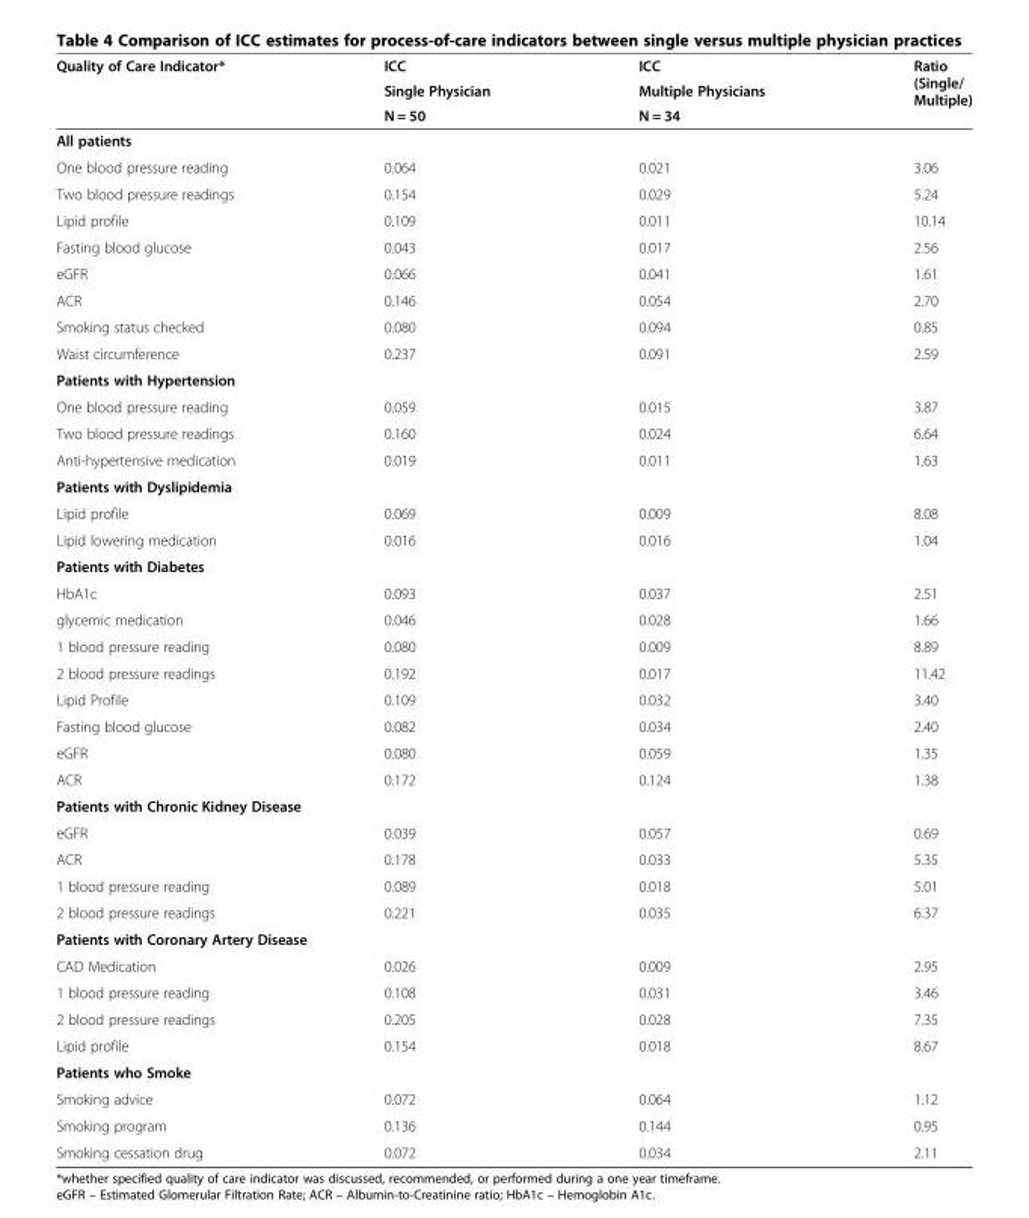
<table><thead><tr><td rowspan="3">Quality of Care Indicator*</td><td rowspan="3">ICC Single Physician N = 50</td><td rowspan="3">ICC Multiple Physicians N = 34</td><td rowspan="3">Ratio (Single/ Multiple)</td></tr><tr></tr><tr></tr></thead><tbody><tr><td colspan="4">All patients</td></tr><tr><td>One blood pressure reading</td><td>0.064</td><td>0.021</td><td>3.06</td></tr><tr><td>Two blood pressure readings</td><td>0.154</td><td>0.029</td><td>5.24</td></tr><tr><td>Lipid profile</td><td>0.109</td><td>0.011</td><td>10.14</td></tr><tr><td>Fasting blood glucose</td><td>0.043</td><td>0.017</td><td>2.56</td></tr><tr><td>eGFR</td><td>0.066</td><td>0.041</td><td>1.61</td></tr><tr><td>ACR</td><td>0.146</td><td>0.054</td><td>2.70</td></tr><tr><td>Smoking status checked</td><td>0.080</td><td>0.094</td><td>0.85</td></tr><tr><td>Waist circumference</td><td>0.237</td><td>0.091</td><td>2.59</td></tr><tr><td colspan="4">Patients with Hypertension</td></tr><tr><td>One blood pressure reading</td><td>0.059</td><td>0.015</td><td>3.87</td></tr><tr><td>Two blood pressure readings</td><td>0.160</td><td>0.024</td><td>6.64</td></tr><tr><td>Anti-hypertensive medication</td><td>0.019</td><td>0.011</td><td>1.63</td></tr><tr><td colspan="4">Patients with Dyslipidemia</td></tr><tr><td>Lipid profile</td><td>0.069</td><td>0.009</td><td>8.08</td></tr><tr><td>Lipid lowering medication</td><td>0.016</td><td>0.016</td><td>1.04</td></tr><tr><td colspan="4">Patients with Diabetes</td></tr><tr><td>HbA1c</td><td>0.093</td><td>0.037</td><td>2.51</td></tr><tr><td>glycemic medication</td><td>0.046</td><td>0.028</td><td>1.66</td></tr><tr><td>1 blood pressure reading</td><td>0.080</td><td>0.009</td><td>8.89</td></tr><tr><td>2 blood pressure readings</td><td>0.192</td><td>0.017</td><td>11.42</td></tr><tr><td>Lipid Profile</td><td>0.109</td><td>0.032</td><td>3.40</td></tr><tr><td>Fasting blood glucose</td><td>0.082</td><td>0.034</td><td>2.40</td></tr><tr><td>eGFR</td><td>0.080</td><td>0.059</td><td>1.35</td></tr><tr><td>ACR</td><td>0.172</td><td>0.124</td><td>1.38</td></tr><tr><td colspan="4">Patients with Chronic Kidney Disease</td></tr><tr><td>eGFR</td><td>0.039</td><td>0.057</td><td>0.69</td></tr><tr><td>ACR</td><td>0.178</td><td>0.033</td><td>5.35</td></tr><tr><td>1 blood pressure reading</td><td>0.089</td><td>0.018</td><td>5.01</td></tr><tr><td>2 blood pressure readings</td><td>0.221</td><td>0.035</td><td>6.37</td></tr><tr><td colspan="4">Patients with Coronary Artery Disease</td></tr><tr><td>CAD Medication</td><td>0.026</td><td>0.009</td><td>2.95</td></tr><tr><td>1 blood pressure reading</td><td>0.108</td><td>0.031</td><td>3.46</td></tr><tr><td>2 blood pressure readings</td><td>0.205</td><td>0.028</td><td>7.35</td></tr><tr><td>Lipid profile</td><td>0.154</td><td>0.018</td><td>8.67</td></tr><tr><td colspan="4">Patients who Smoke</td></tr><tr><td>Smoking advice</td><td>0.072</td><td>0.064</td><td>1.12</td></tr><tr><td>Smoking program</td><td>0.136</td><td>0.144</td><td>0.95</td></tr><tr><td>Smoking cessation drug</td><td>0.072</td><td>0.034</td><td>2.11</td></tr></tbody></table>